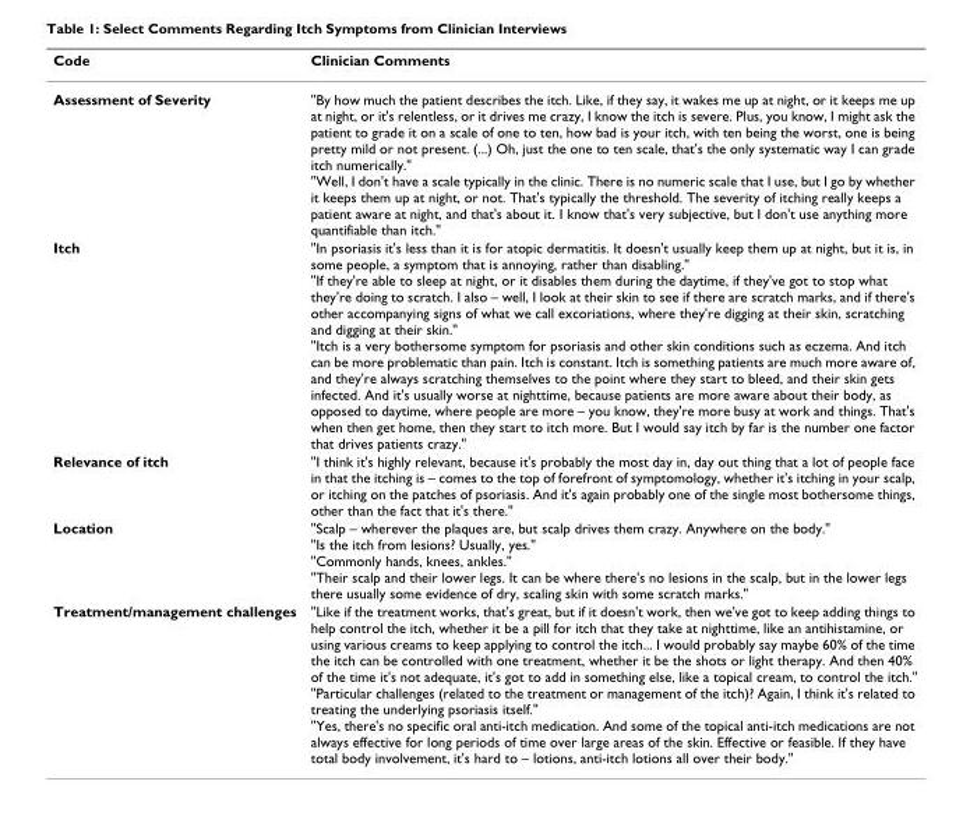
<table><thead><tr><td>Code</td><td>Clinician Comments</td></tr></thead><tbody><tr><td>Assessment of Severity</td><td>&quot;By how much the patient describes the itch. Like, if they say, it wakes me up at night, or it keeps me up at night, or it&#x27;s relentless, or it drives me crazy, I know the itch is severe. Plus, you know, I might ask the patient to grade it on a scale of one to ten, how bad is your itch, with ten being the worst, one is being pretty mild or not present. (...) Oh, just the one to ten scale, that&#x27;s the only systematic way I can grade itch numerically.&quot; &quot;Well, I don&#x27;t have a scale typically in the clinic. There is no numeric scale that I use, but I go by whether it keeps them up at night, or not. That&#x27;s typically the threshold. The severity of itching really keeps a patient aware at night, and that&#x27;s about it. I know that&#x27;s very subjective, but I don&#x27;t use anything more quantifiable than itch.&quot;</td></tr><tr><td>Itch</td><td>&quot;In psoriasis it&#x27;s less than it is for atopic dermatitis. It doesn&#x27;t usually keep them up at night, but it is, in some people, a symptom that is annoying, rather than disabling.&quot; &quot;If they&#x27;re able to sleep at night, or it disables them during the daytime, if they&#x27;ve got to stop what they&#x27;re doing to scratch. I also – well, I look at their skin to see if there are scratch marks, and if there&#x27;s other accompanying signs of what we call excoriations, where they&#x27;re digging at their skin, scratching and digging at their skin.&quot; &quot;Itch is a very bothersome symptom for psoriasis and other skin conditions such as eczema. And itch can be more problematic than pain. Itch is constant. Itch is something patients are much more aware of, and they&#x27;re always scratching themselves to the point where they start to bleed, and their skin gets infected. And it&#x27;s usually worse at nighttime, because patients are more aware about their body, as opposed to daytime, where people are more – you know, they&#x27;re more busy at work and things. That&#x27;s when then get home, then they start to itch more. But I would say itch by far is the number one factor that drives patients crazy.&quot;</td></tr><tr><td>Relevance of itch</td><td>&quot;I think it&#x27;s highly relevant, because it&#x27;s probably the most day in, day out thing that a lot of people face in that the itching is – comes to the top of forefront of symptomology, whether it&#x27;s itching in your scalp, or itching on the patches of psoriasis. And it&#x27;s again probably one of the single most bothersome things, other than the fact that it&#x27;s there.&quot;</td></tr><tr><td>Location</td><td>&quot;Scalp – wherever the plaques are, but scalp drives them crazy. Anywhere on the body.&quot; &quot;Is the itch from lesions? Usually, yes.&quot; &quot;Commonly hands, knees, ankles.&quot; &quot;Their scalp and their lower legs. It can be where there&#x27;s no lesions in the scalp, but in the lower legs there usually some evidence of dry, scaling skin with some scratch marks.&quot;</td></tr><tr><td>Treatment/management challenges</td><td>&quot;Like if the treatment works, that&#x27;s great, but if it doesn&#x27;t work, then we&#x27;ve got to keep adding things to help control the itch, whether it be a pill for itch that they take at nighttime, like an antihistamine, or using various creams to keep applying to control the itch... I would probably say maybe 60% of the time the itch can be controlled with one treatment, whether it be the shots or light therapy. And then 40% of the time it&#x27;s not adequate, it&#x27;s got to add in something else, like a topical cream, to control the itch.&quot; &quot;Particular challenges (related to the treatment or management of the itch)? Again, I think it&#x27;s related to treating the underlying psoriasis itself.&quot; &quot;Yes, there&#x27;s no specific oral anti-itch medication. And some of the topical anti-itch medications are not always effective for long periods of time over large areas of the skin. Effective or feasible. If they have total body involvement, it&#x27;s hard to – lotions, anti-itch lotions all over their body.&quot;</td></tr></tbody></table>